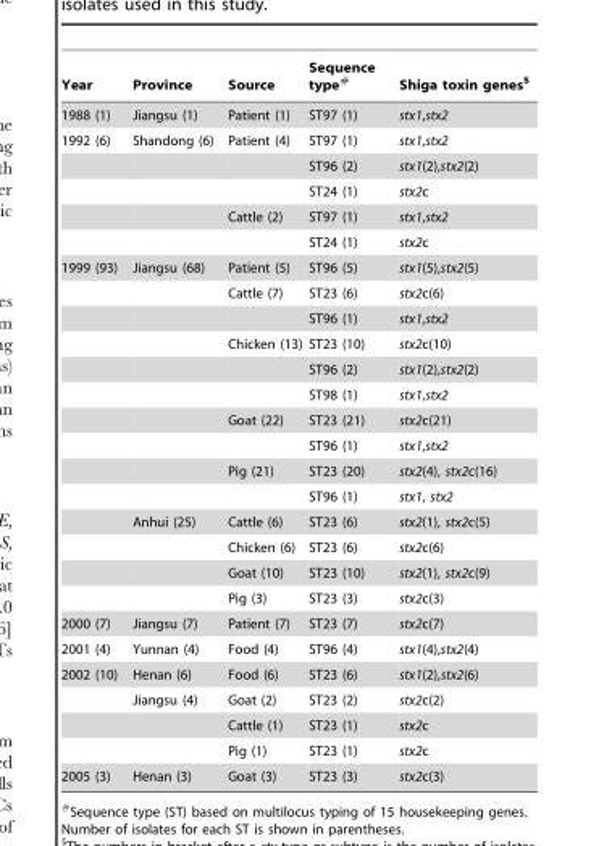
<table><thead><tr><td>Year</td><td>Province</td><td>Source</td><td>Sequence type#</td><td>Shiga toxin genes$</td></tr></thead><tbody><tr><td>1988 (1)</td><td>Jiangsu (1)</td><td>Patient (1)</td><td>ST97 (1)</td><td>stx1,stx2</td></tr><tr><td rowspan="5">1992 (6)</td><td>Shandong (6)</td><td>Patient (4)</td><td>ST97 (1)</td><td>stx1,stx2</td></tr><tr><td></td><td></td><td>ST96 (2)</td><td>stx1(2),stx2(2)</td></tr><tr><td></td><td></td><td>ST24 (1)</td><td>stx2c</td></tr><tr><td></td><td>Cattle (2)</td><td>ST97 (1)</td><td>stx1,stx2</td></tr><tr><td></td><td></td><td>ST24 (1)</td><td>stx2c</td></tr><tr><td rowspan="14">1999 (93)</td><td>Jiangsu (68)</td><td>Patient (5)</td><td>ST96 (5)</td><td>stx1(5),stx2(5)</td></tr><tr><td></td><td>Cattle (7)</td><td>ST23 (6)</td><td>stx2c(6)</td></tr><tr><td></td><td></td><td>ST96 (1)</td><td>stx1,stx2</td></tr><tr><td></td><td>Chicken (13)</td><td>ST23 (10)</td><td>stx2c(10)</td></tr><tr><td></td><td></td><td>ST96 (2)</td><td>stx1(2),stx2(2)</td></tr><tr><td></td><td></td><td>ST98 (1)</td><td>stx1,stx2</td></tr><tr><td></td><td>Goat (22)</td><td>ST23 (21)</td><td>stx2c(21)</td></tr><tr><td></td><td></td><td>ST96 (1)</td><td>stx1,stx2</td></tr><tr><td></td><td>Pig (21)</td><td>ST23 (20)</td><td>stx2(4), stx2c(16)</td></tr><tr><td></td><td></td><td>ST96 (1)</td><td>stx1, stx2</td></tr><tr><td>Anhui (25)</td><td>Cattle (6)</td><td>ST23 (6)</td><td>stx2(1), stx2c(5)</td></tr><tr><td></td><td>Chicken (6)</td><td>ST23 (6)</td><td>stx2c(6)</td></tr><tr><td></td><td>Goat (10)</td><td>ST23 (10)</td><td>stx2(1), stx2c(9)</td></tr><tr><td></td><td>Pig (3)</td><td>ST23 (3)</td><td>stx2c(3)</td></tr><tr><td>2000 (7)</td><td>Jiangsu (7)</td><td>Patient (7)</td><td>ST23 (7)</td><td>stx2c(7)</td></tr><tr><td>2001 (4)</td><td>Yunnan (4)</td><td>Food (4)</td><td>ST96 (4)</td><td>stx1(4),stx2(4)</td></tr><tr><td rowspan="4">2002 (10)</td><td>Henan (6)</td><td>Food (6)</td><td>ST23 (6)</td><td>stx1(2),stx2(6)</td></tr><tr><td>Jiangsu (4)</td><td>Goat (2)</td><td>ST23 (2)</td><td>stx2c(2)</td></tr><tr><td></td><td>Cattle (1)</td><td>ST23 (1)</td><td>stx2c</td></tr><tr><td></td><td>Pig (1)</td><td>ST23 (1)</td><td>stx2c</td></tr><tr><td>2005 (3)</td><td>Henan (3)</td><td>Goat (3)</td><td>ST23 (3)</td><td>stx2c(3)</td></tr></tbody></table>